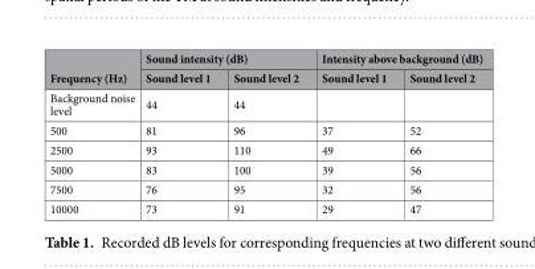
<table><thead><tr><td rowspan="2">Frequency (Hz)</td><td colspan="2">Sound intensity (dB)</td><td colspan="2">Intensity above background (dB)</td></tr><tr><td>Sound level 1</td><td>Sound level 2</td><td>Sound level 1</td><td>Sound level 2</td></tr></thead><tbody><tr><td>Background noise level</td><td>44</td><td>44</td><td></td><td></td></tr><tr><td>500</td><td>81</td><td>96</td><td>37</td><td>52</td></tr><tr><td>2500</td><td>93</td><td>110</td><td>49</td><td>66</td></tr><tr><td>5000</td><td>83</td><td>100</td><td>39</td><td>56</td></tr><tr><td>7500</td><td>76</td><td>95</td><td>32</td><td>56</td></tr><tr><td>10000</td><td>73</td><td>91</td><td>29</td><td>47</td></tr></tbody></table>